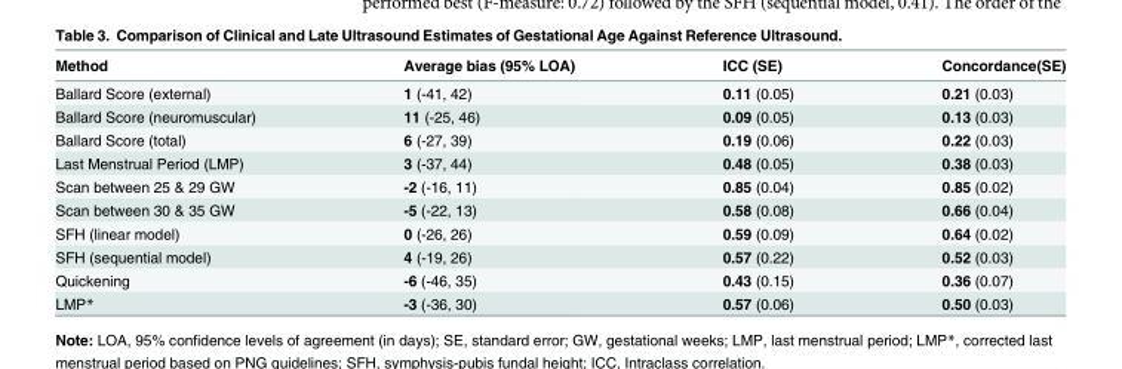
<table><thead><tr><td>Method</td><td>Average bias (95% LOA)</td><td>ICC (SE)</td><td>Concordance(SE)</td></tr></thead><tbody><tr><td>Ballard Score (external)</td><td>1 (-41, 42)</td><td>0.11 (0.05)</td><td>0.21 (0.03)</td></tr><tr><td>Ballard Score (neuromuscular)</td><td>11 (-25, 46)</td><td>0.09 (0.05)</td><td>0.13 (0.03)</td></tr><tr><td>Ballard Score (total)</td><td>6 (-27, 39)</td><td>0.19 (0.06)</td><td>0.22 (0.03)</td></tr><tr><td>Last Menstrual Period (LMP)</td><td>3 (-37, 44)</td><td>0.48 (0.05)</td><td>0.38 (0.03)</td></tr><tr><td>Scan between 25 &amp; 29 GW</td><td>-2 (-16, 11)</td><td>0.85 (0.04)</td><td>0.85 (0.02)</td></tr><tr><td>Scan between 30 &amp; 35 GW</td><td>-5 (-22, 13)</td><td>0.58 (0.08)</td><td>0.66 (0.04)</td></tr><tr><td>SFH (linear model)</td><td>0 (-26, 26)</td><td>0.59 (0.09)</td><td>0.64 (0.02)</td></tr><tr><td>SFH (sequential model)</td><td>4 (-19, 26)</td><td>0.57 (0.22)</td><td>0.52 (0.03)</td></tr><tr><td>Quickening</td><td>-6 (-46, 35)</td><td>0.43 (0.15)</td><td>0.36 (0.07)</td></tr><tr><td>LMP*</td><td>-3 (-36, 30)</td><td>0.57 (0.06)</td><td>0.50 (0.03)</td></tr></tbody></table>